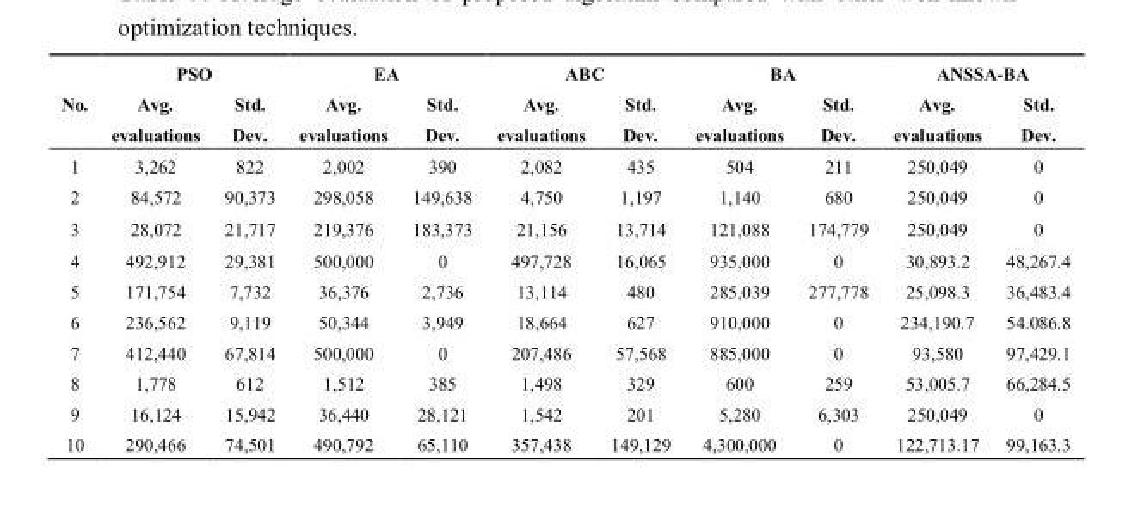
<table><thead><tr><td rowspan="2">No.</td><td colspan="2">PSO</td><td colspan="2">EA</td><td colspan="2">ABC</td><td colspan="2">BA</td><td colspan="2">ANSSA-BA</td></tr><tr><td>Avg. evaluations</td><td>Std. Dev.</td><td>Avg. evaluations</td><td>Std. Dev.</td><td>Avg. evaluations</td><td>Std. Dev.</td><td>Avg. evaluations</td><td>Std. Dev.</td><td>Avg. evaluations</td><td>Std. Dev.</td></tr></thead><tbody><tr><td>1</td><td>3,262</td><td>822</td><td>2,002</td><td>390</td><td>2,082</td><td>435</td><td>504</td><td>211</td><td>250,049</td><td>0</td></tr><tr><td>2</td><td>84,572</td><td>90,373</td><td>298,058</td><td>149,638</td><td>4,750</td><td>1,197</td><td>1,140</td><td>680</td><td>250,049</td><td>0</td></tr><tr><td>3</td><td>28,072</td><td>21,717</td><td>219,376</td><td>183,373</td><td>21,156</td><td>13,714</td><td>121,088</td><td>174,779</td><td>250,049</td><td>0</td></tr><tr><td>4</td><td>492,912</td><td>29,381</td><td>500,000</td><td>0</td><td>497,728</td><td>16,065</td><td>935,000</td><td>0</td><td>30,893.2</td><td>48,267.4</td></tr><tr><td>5</td><td>171,754</td><td>7,732</td><td>36,376</td><td>2,736</td><td>13,114</td><td>480</td><td>285,039</td><td>277,778</td><td>25,098.3</td><td>36,483.4</td></tr><tr><td>6</td><td>236,562</td><td>9,119</td><td>50,344</td><td>3,949</td><td>18,664</td><td>627</td><td>910,000</td><td>0</td><td>234,190.7</td><td>54.086.8</td></tr><tr><td>7</td><td>412,440</td><td>67,814</td><td>500,000</td><td>0</td><td>207,486</td><td>57,568</td><td>885,000</td><td>0</td><td>93,580</td><td>97,429.1</td></tr><tr><td>8</td><td>1,778</td><td>612</td><td>1,512</td><td>385</td><td>1,498</td><td>329</td><td>600</td><td>259</td><td>53,005.7</td><td>66,284.5</td></tr><tr><td>9</td><td>16,124</td><td>15,942</td><td>36,440</td><td>28,121</td><td>1,542</td><td>201</td><td>5,280</td><td>6,303</td><td>250,049</td><td>0</td></tr><tr><td>10</td><td>290,466</td><td>74,501</td><td>490,792</td><td>65,110</td><td>357,438</td><td>149,129</td><td>4,300,000</td><td>0</td><td>122,713.17</td><td>99,163.3</td></tr></tbody></table>